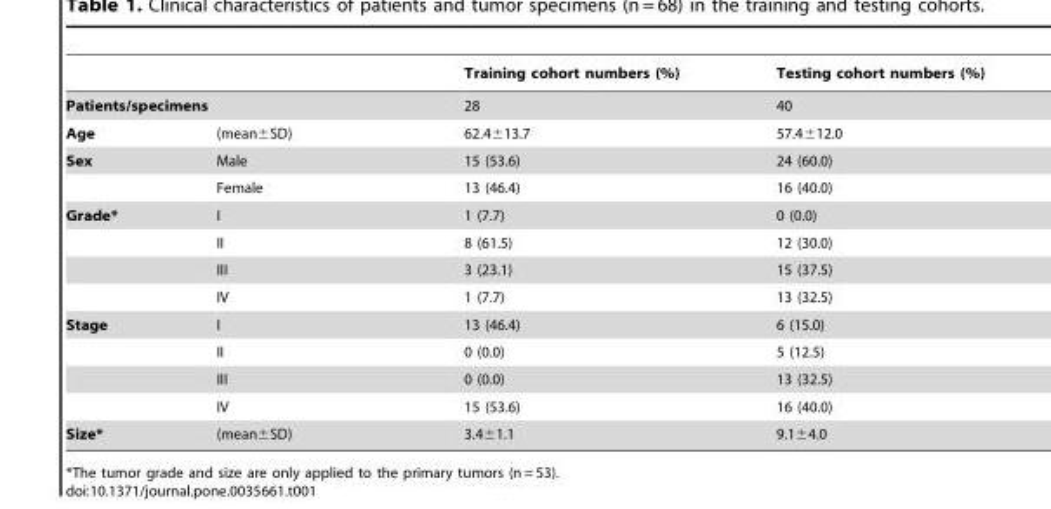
<table><thead><tr><td></td><td></td><td>Training cohort numbers (%)</td><td>Testing cohort numbers (%)</td></tr></thead><tbody><tr><td colspan="2">Patients/specimens</td><td>28</td><td>40</td></tr><tr><td>Age</td><td>(mean±SD)</td><td>62.4±13.7</td><td>57.4±12.0</td></tr><tr><td rowspan="2">Sex</td><td>Male</td><td>15 (53.6)</td><td>24 (60.0)</td></tr><tr><td>Female</td><td>13 (46.4)</td><td>16 (40.0)</td></tr><tr><td rowspan="4">Grade*</td><td>I</td><td>1 (7.7)</td><td>0 (0.0)</td></tr><tr><td>II</td><td>8 (61.5)</td><td>12 (30.0)</td></tr><tr><td>III</td><td>3 (23.1)</td><td>15 (37.5)</td></tr><tr><td>IV</td><td>1 (7.7)</td><td>13 (32.5)</td></tr><tr><td rowspan="4">Stage</td><td>I</td><td>13 (46.4)</td><td>6 (15.0)</td></tr><tr><td>II</td><td>0 (0.0)</td><td>5 (12.5)</td></tr><tr><td>III</td><td>0 (0.0)</td><td>13 (32.5)</td></tr><tr><td>IV</td><td>15 (53.6)</td><td>16 (40.0)</td></tr><tr><td>Size*</td><td>(mean±SD)</td><td>3.4±1.1</td><td>9.1±4.0</td></tr></tbody></table>